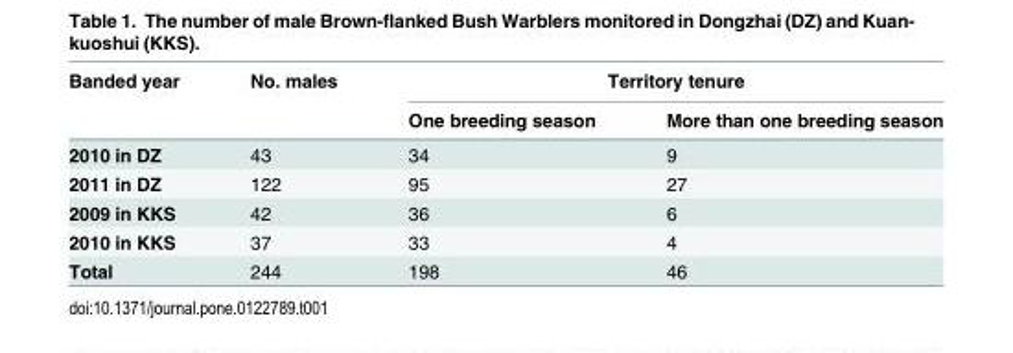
<table><thead><tr><td rowspan="2">Banded year</td><td rowspan="2">No. males</td><td colspan="2">Territory tenure</td></tr><tr><td>One breeding season</td><td>More than one breeding season</td></tr></thead><tbody><tr><td>2010 in DZ</td><td>43</td><td>34</td><td>9</td></tr><tr><td>2011 in DZ</td><td>122</td><td>95</td><td>27</td></tr><tr><td>2009 in KKS</td><td>42</td><td>36</td><td>6</td></tr><tr><td>2010 in KKS</td><td>37</td><td>33</td><td>4</td></tr><tr><td>Total</td><td>244</td><td>198</td><td>46</td></tr></tbody></table>